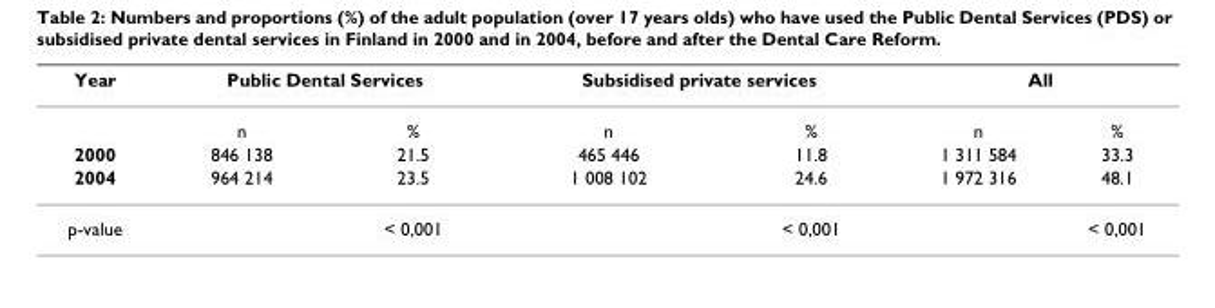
<table><thead><tr><td rowspan="2">Year</td><td colspan="2">Public Dental Services</td><td colspan="2">Subsidised private services</td><td colspan="2">All</td></tr><tr><td>n</td><td>%</td><td>n</td><td>%</td><td>n</td><td>%</td></tr></thead><tbody><tr><td>2000</td><td>846 138</td><td>21.5</td><td>465 446</td><td>11.8</td><td>1 311 584</td><td>33.3</td></tr><tr><td>2004</td><td>964 214</td><td>23.5</td><td>1 008 102</td><td>24.6</td><td>1 972 316</td><td>48.1</td></tr><tr><td>p-value</td><td></td><td>&lt; 0,001</td><td></td><td>&lt; 0,001</td><td></td><td>&lt; 0,001</td></tr></tbody></table>